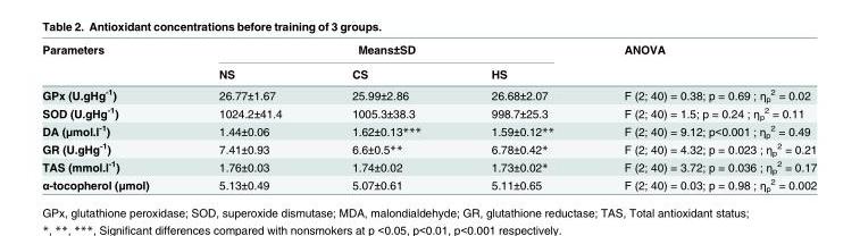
<table><thead><tr><td rowspan="2">Parameters</td><td colspan="3">Means±SD</td><td rowspan="2">ANOVA</td></tr><tr><td>NS</td><td>CS</td><td>HS</td></tr></thead><tbody><tr><td>GPx (U.gHg<sup>-1</sup>)</td><td>26.77±1.67</td><td>25.99±2.86</td><td>26.68±2.07</td><td>F (2; 40) = 0.38; p = 0.69 ; η<sub>p</sub> <sup>2</sup> = 0.02</td></tr><tr><td>SOD (U.gHg<sup>-1</sup>)</td><td>1024.2±41.4</td><td>1005.3±38.3</td><td>998.7±25.3</td><td>F (2; 40) = 1.5; p = 0.24 ; η<sub>p</sub> <sup>2</sup> = 0.11</td></tr><tr><td>DA (μmol.l<sup>-1</sup>)</td><td>1.44±0.06</td><td>1.62±0.13***</td><td>1.59±0.12**</td><td>F (2; 40) = 9.12; p&lt;0.001 ; η<sub>p</sub> <sup>2</sup> = 0.49</td></tr><tr><td>GR (U.gHg<sup>-1</sup>)</td><td>7.41±0.93</td><td>6.6±0.5**</td><td>6.78±0.42*</td><td>F (2; 40) = 4.32; p = 0.023 ; η<sub>p</sub> <sup>2</sup> = 0.21</td></tr><tr><td>TAS (mmol.l<sup>-1</sup>)</td><td>1.76±0.03</td><td>1.74±0.02</td><td>1.73±0.02*</td><td>F (2; 40) = 3.72; p = 0.036 ; η<sub>p</sub> <sup>2</sup> = 0.17</td></tr><tr><td>α-tocopherol (μmol)</td><td>5.13±0.49</td><td>5.07±0.61</td><td>5.11±0.65</td><td>F (2; 40) = 0.03; p = 0.98 ; η<sub>p</sub> <sup>2</sup> = 0.002</td></tr></tbody></table>